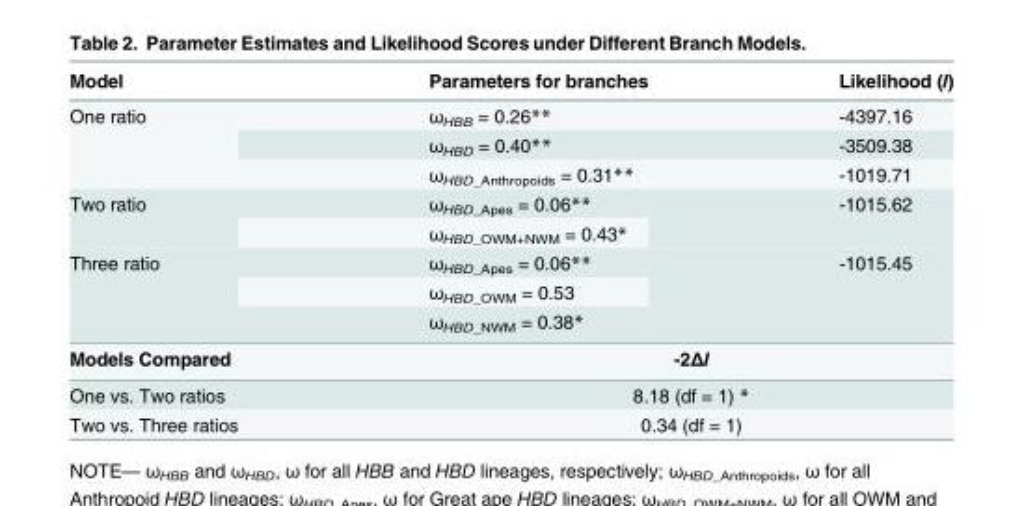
<table><thead><tr><td>Model</td><td>Parameters for branches</td><td>Likelihood (l)</td></tr></thead><tbody><tr><td rowspan="3">One ratio</td><td>ω<sub>HBB</sub> = 0.26**</td><td>-4397.16</td></tr><tr><td>ω<sub>HBD</sub> = 0.40**</td><td>-3509.38</td></tr><tr><td>ω<sub>HBD_Anthropoids</sub> = 0.31**</td><td>-1019.71</td></tr><tr><td rowspan="2">Two ratio</td><td>ω<sub>HBD_Apes</sub> = 0.06**</td><td rowspan="2">-1015.62</td></tr><tr><td>ω<sub>HBD_OWM+NWM</sub> = 0.43*</td></tr><tr><td rowspan="3">Three ratio</td><td>ω<sub>HBD_Apes</sub> = 0.06**</td><td rowspan="3">-1015.45</td></tr><tr><td>ω<sub>HBD_OWM</sub> = 0.53</td></tr><tr><td>ω<sub>HBD_NWM</sub> = 0.38*</td></tr><tr><td>Models Compared</td><td colspan="2">-2Δl</td></tr><tr><td>One vs. Two ratios</td><td colspan="2">8.18 (df = 1) *</td></tr><tr><td>Two vs. Three ratios</td><td colspan="2">0.34 (df = 1)</td></tr></tbody></table>